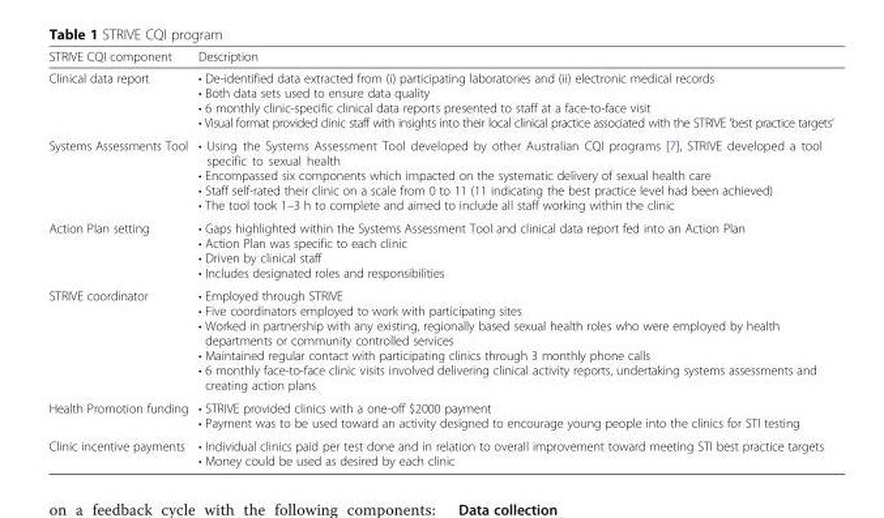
<table><thead><tr><td>STRIVE CQI component</td><td>Description</td></tr></thead><tbody><tr><td>Clinical data report</td><td>• De-identified data extracted from (i) participating laboratories and (ii) electronic medical records • Both data sets used to ensure data quality • 6 monthly clinic-specific clinical data reports presented to staff at a face-to-face visit • Visual format provided clinic staff with insights into their local clinical practice associated with the STRIVE ‘best practice targets’</td></tr><tr><td>Systems Assessments Tool</td><td>• Using the Systems Assessment Tool developed by other Australian CQI programs [7], STRIVE developed a tool specific to sexual health • Encompassed six components which impacted on the systematic delivery of sexual health care • Staff self-rated their clinic on a scale from 0 to 11 (11 indicating the best practice level had been achieved) • The tool took 1–3 h to complete and aimed to include all staff working within the clinic</td></tr><tr><td>Action Plan setting</td><td>• Gaps highlighted within the Systems Assessment Tool and clinical data report fed into an Action Plan • Action Plan was specific to each clinic • Driven by clinical staff • Includes designated roles and responsibilities</td></tr><tr><td>STRIVE coordinator</td><td>• Employed through STRIVE • Five coordinators employed to work with participating sites • Worked in partnership with any existing, regionally based sexual health roles who were employed by health departments or community controlled services • Maintained regular contact with participating clinics through 3 monthly phone calls • 6 monthly face-to-face clinic visits involved delivering clinical activity reports, undertaking systems assessments and creating action plans</td></tr><tr><td>Health Promotion funding</td><td>• STRIVE provided clinics with a one-off $2000 payment • Payment was to be used toward an activity designed to encourage young people into the clinics for STI testing</td></tr><tr><td>Clinic incentive payments</td><td>• Individual clinics paid per test done and in relation to overall improvement toward meeting STI best practice targets • Money could be used as desired by each clinic</td></tr></tbody></table>